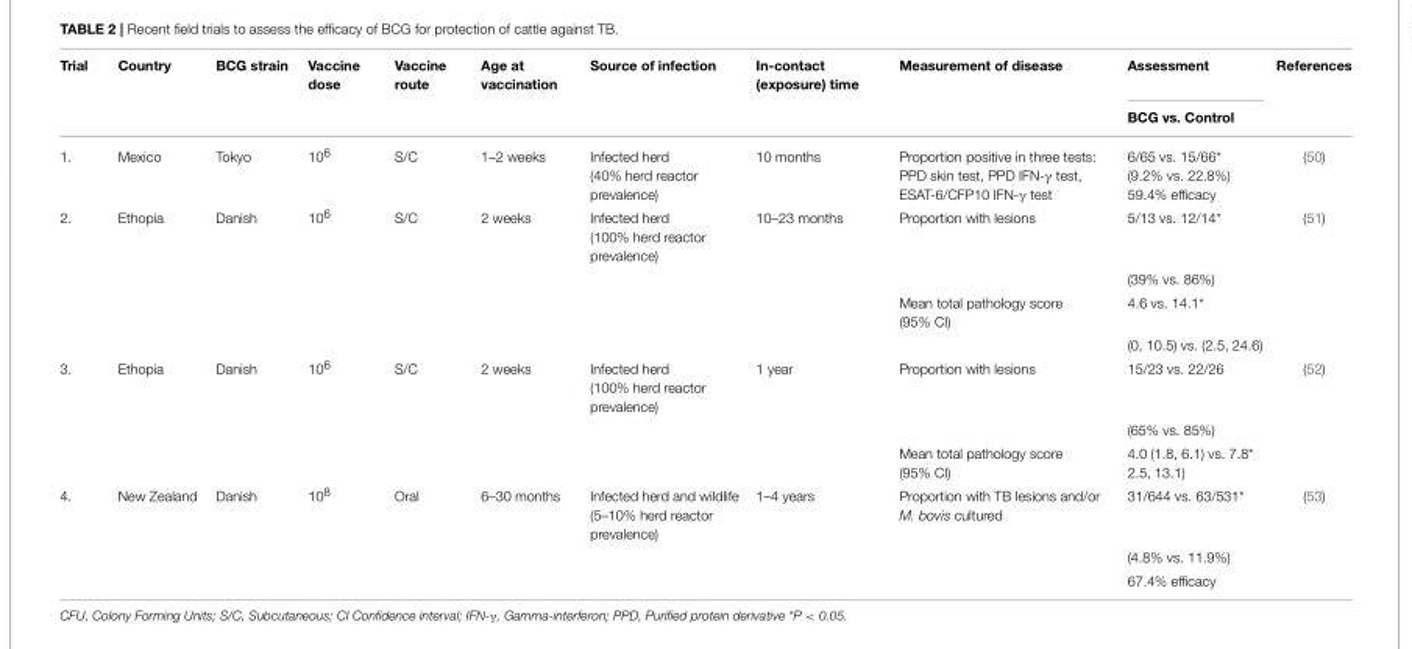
<table><thead><tr><td rowspan="2">Trial</td><td rowspan="2">Country</td><td rowspan="2">BCG strain</td><td rowspan="2">Vaccine dose</td><td rowspan="2">Vaccine route</td><td rowspan="2">Age at vaccination</td><td rowspan="2">Source of infection</td><td rowspan="2">In-contact (exposure) time</td><td rowspan="2">Measurement of disease</td><td rowspan="2">Assessment BCG vs. Control</td><td rowspan="2">References</td></tr><tr></tr></thead><tbody><tr><td>1.</td><td>Mexico</td><td>Tokyo</td><td>10<sup>6</sup></td><td>S/C</td><td>1–2 weeks</td><td>Infected herd (40% herd reactor prevalence)</td><td>10 months</td><td>Proportion positive in three tests: PPD skin test, PPD IFN-γ test, ESAT-6/CFP10 IFN-γ test</td><td>6/65 vs. 15/66* (9.2% vs. 22.8%) 59.4% efficacy</td><td>(50)</td></tr><tr><td rowspan="4">2.</td><td>Ethopia</td><td>Danish</td><td>10<sup>6</sup></td><td>S/C</td><td>2 weeks</td><td>Infected herd (100% herd reactor prevalence)</td><td>10–23 months</td><td>Proportion with lesions</td><td>5/13 vs. 12/14*</td><td>(51)</td></tr><tr><td></td><td></td><td></td><td></td><td></td><td></td><td></td><td></td><td>(39% vs. 86%)</td><td></td></tr><tr><td></td><td></td><td></td><td></td><td></td><td></td><td></td><td>Mean total pathology score (95% CI)</td><td>4.6 vs. 14.1*</td><td></td></tr><tr><td></td><td></td><td></td><td></td><td></td><td></td><td></td><td></td><td>(0, 10.5) vs. (2.5, 24.6)</td><td></td></tr><tr><td rowspan="3">3.</td><td>Ethopia</td><td>Danish</td><td>10<sup>6</sup></td><td>S/C</td><td>2 weeks</td><td>Infected herd (100% herd reactor prevalence)</td><td>1 year</td><td>Proportion with lesions</td><td>15/23 vs. 22/26</td><td>(52)</td></tr><tr><td></td><td></td><td></td><td></td><td></td><td></td><td></td><td></td><td>(65% vs. 85%)</td><td></td></tr><tr><td></td><td></td><td></td><td></td><td></td><td></td><td></td><td>Mean total pathology score (95% CI)</td><td>4.0 (1.8, 6.1) vs. 7.8* 2.5, 13.1)</td><td></td></tr><tr><td rowspan="3">4.</td><td>New Zealand</td><td>Danish</td><td>10<sup>8</sup></td><td>Oral</td><td>6–30 months</td><td>Infected herd and wildlife (5–10% herd reactor prevalence)</td><td>1–4 years</td><td>Proportion with TB lesions and/or M. bovis cultured</td><td>31/644 vs. 63/531*</td><td>(53)</td></tr><tr><td></td><td></td><td></td><td></td><td></td><td></td><td></td><td></td><td>(4.8% vs. 11.9%)</td><td></td></tr><tr><td></td><td></td><td></td><td></td><td></td><td></td><td></td><td></td><td>67.4% efficacy</td><td></td></tr></tbody></table>